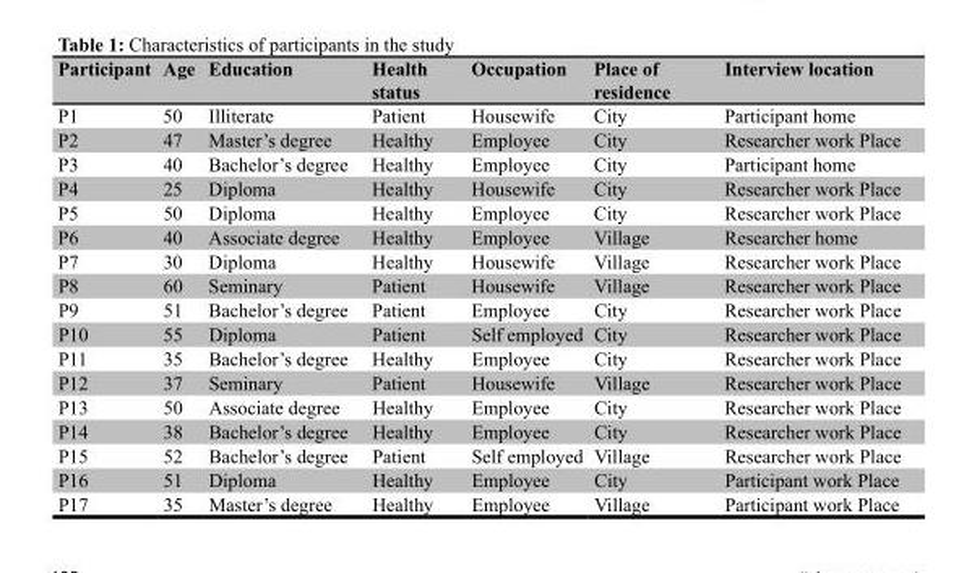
<table><thead><tr><td>Participant</td><td>Age</td><td>Education</td><td>Health status</td><td>Occupation</td><td>Place of residence</td><td>Interview location</td></tr></thead><tbody><tr><td>P1</td><td>50</td><td>Illiterate</td><td>Patient</td><td>Housewife</td><td>City</td><td>Participant home</td></tr><tr><td>P2</td><td>47</td><td>Master’s degree</td><td>Healthy</td><td>Employee</td><td>City</td><td>Researcher work Place</td></tr><tr><td>P3</td><td>40</td><td>Bachelor’s degree</td><td>Healthy</td><td>Employee</td><td>City</td><td>Participant home</td></tr><tr><td>P4</td><td>25</td><td>Diploma</td><td>Healthy</td><td>Housewife</td><td>City</td><td>Researcher work Place</td></tr><tr><td>P5</td><td>50</td><td>Diploma</td><td>Healthy</td><td>Employee</td><td>City</td><td>Researcher work Place</td></tr><tr><td>P6</td><td>40</td><td>Associate degree</td><td>Healthy</td><td>Employee</td><td>Village</td><td>Researcher home</td></tr><tr><td>P7</td><td>30</td><td>Diploma</td><td>Healthy</td><td>Housewife</td><td>Village</td><td>Researcher work Place</td></tr><tr><td>P8</td><td>60</td><td>Seminary</td><td>Patient</td><td>Housewife</td><td>Village</td><td>Researcher work Place</td></tr><tr><td>P9</td><td>51</td><td>Bachelor’s degree</td><td>Patient</td><td>Employee</td><td>City</td><td>Researcher work Place</td></tr><tr><td>P10</td><td>55</td><td>Diploma</td><td>Patient</td><td>Self employed</td><td>City</td><td>Researcher work Place</td></tr><tr><td>P11</td><td>35</td><td>Bachelor’s degree</td><td>Healthy</td><td>Employee</td><td>City</td><td>Researcher work Place</td></tr><tr><td>P12</td><td>37</td><td>Seminary</td><td>Patient</td><td>Housewife</td><td>Village</td><td>Researcher work Place</td></tr><tr><td>P13</td><td>50</td><td>Associate degree</td><td>Healthy</td><td>Employee</td><td>City</td><td>Researcher work Place</td></tr><tr><td>P14</td><td>38</td><td>Bachelor’s degree</td><td>Healthy</td><td>Employee</td><td>City</td><td>Researcher work Place</td></tr><tr><td>P15</td><td>52</td><td>Bachelor’s degree</td><td>Patient</td><td>Self employed</td><td>Village</td><td>Researcher work Place</td></tr><tr><td>P16</td><td>51</td><td>Diploma</td><td>Healthy</td><td>Employee</td><td>City</td><td>Participant work Place</td></tr><tr><td>P17</td><td>35</td><td>Master’s degree</td><td>Healthy</td><td>Employee</td><td>Village</td><td>Participant work Place</td></tr></tbody></table>